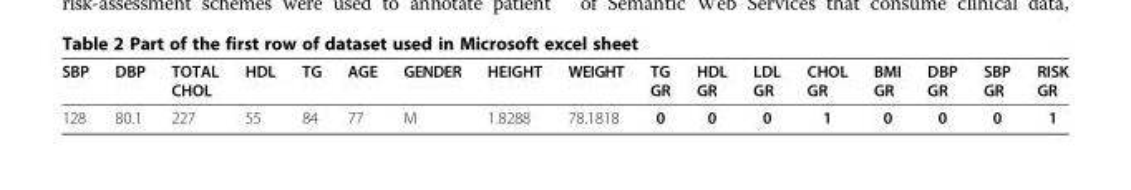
<table><thead><tr><td>SBP</td><td>DBP</td><td>TOTAL CHOL</td><td>HDL</td><td>TG</td><td>AGE</td><td>GENDER</td><td>HEIGHT</td><td>WEIGHT</td><td>TG GR</td><td>HDL GR</td><td>LDL GR</td><td>CHOL GR</td><td>BMI GR</td><td>DBP GR</td><td>SBP GR</td><td>RISK GR</td></tr></thead><tbody><tr><td>128</td><td>80.1</td><td>227</td><td>55</td><td>84</td><td>77</td><td>M</td><td>1.8288</td><td>78.1818</td><td>0</td><td>0</td><td>0</td><td>1</td><td>0</td><td>0</td><td>0</td><td>1</td></tr></tbody></table>